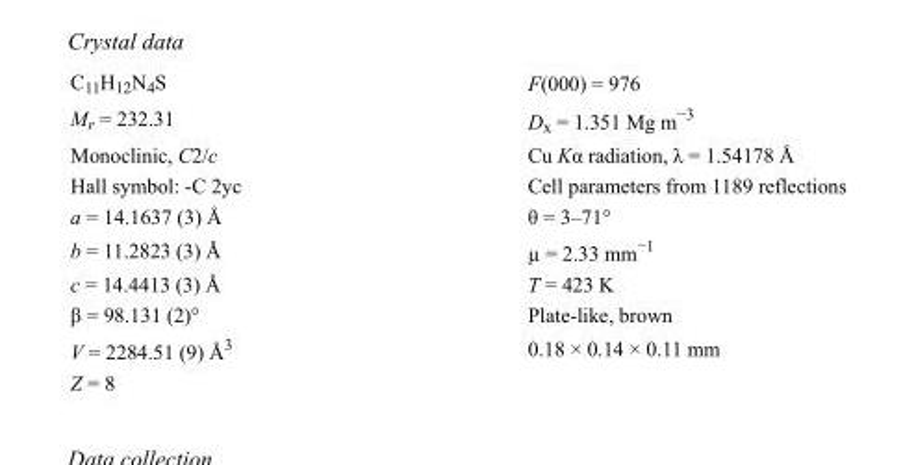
<table><tbody><tr><td>C<sub>11</sub>H<sub>12</sub>N<sub>4</sub>S</td><td>F(000) = 976</td></tr><tr><td>M<sub>r</sub> = 232.31</td><td>D<sub>x</sub> = 1.351 Mg m<sup>−3</sup></td></tr><tr><td>Monoclinic, C2/c</td><td>Cu Kα radiation, λ = 1.54178 Å</td></tr><tr><td>Hall symbol: -C 2yc</td><td>Cell parameters from 1189 reflections</td></tr><tr><td>a = 14.1637 (3) Å</td><td>θ = 3–71°</td></tr><tr><td>b = 11.2823 (3) Å</td><td>µ = 2.33 mm<sup>−1</sup></td></tr><tr><td>c = 14.4413 (3) Å</td><td>T = 423 K</td></tr><tr><td>β = 98.131 (2)°</td><td>Plate-like, brown</td></tr><tr><td>V = 2284.51 (9) Å<sup>3</sup></td><td>0.18 × 0.14 × 0.11 mm</td></tr><tr><td>Z = 8</td><td></td></tr></tbody></table>